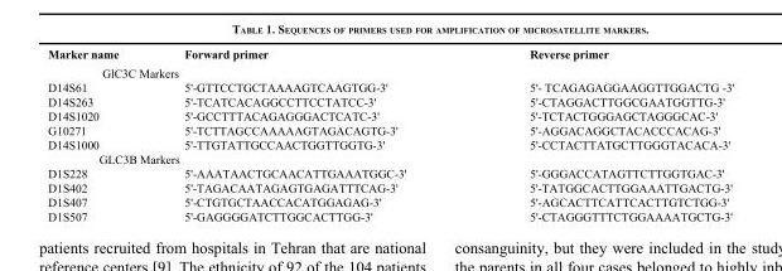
<table><thead><tr><td>Marker name</td><td>Forward primer</td><td>Reverse primer</td></tr></thead><tbody><tr><td colspan="3">GlC3C Markers</td></tr><tr><td>D14S61</td><td>5&#x27;-GTTCCTGCTAAAAGTCAAGTGG-3&#x27;</td><td>5&#x27;- TCAGAGAGGAAGGTTGGACTG -3&#x27;</td></tr><tr><td>D14S263</td><td>5&#x27;-TCATCACAGGCCTTCCTATCC-3&#x27;</td><td>5&#x27;-CTAGGACTTGGCGAATGGTTG-3&#x27;</td></tr><tr><td>D14S1020</td><td>5&#x27;-GCCTTTACAGAGGGACTCATC-3&#x27;</td><td>5&#x27;-TCTACTGGGAGCTAGGGCAC-3&#x27;</td></tr><tr><td>G10271</td><td>5&#x27;-TCTTAGCCAAAAAGTAGACAGTG-3&#x27;</td><td>5&#x27;-AGGACAGGCTACACCCACAG-3&#x27;</td></tr><tr><td>D14S1000</td><td>5&#x27;-TTGTATTGCCAACTGGTTGGTG-3&#x27;</td><td>5&#x27;-CCTACTTATGCTTGGGTACACA-3&#x27;</td></tr><tr><td colspan="3">GLC3B Markers</td></tr><tr><td>D1S228</td><td>5&#x27;-AAATAACTGCAACATTGAAATGGC-3&#x27;</td><td>5&#x27;-GGGACCATAGTTCTTGGTGAC-3&#x27;</td></tr><tr><td>D1S402</td><td>5&#x27;-TAGACAATAGAGTGAGATTTCAG-3&#x27;</td><td>5&#x27;-TATGGCACTTGGAAATTGACTG-3&#x27;</td></tr><tr><td>D1S407</td><td>5&#x27;-CTGTGCTAACCACATGGAGAG-3&#x27;</td><td>5&#x27;-AGCACTTCATTCACTTGTCTGG-3&#x27;</td></tr><tr><td>D1S507</td><td>5&#x27;-GAGGGGATCTTGGCACTTGG-3&#x27;</td><td>5&#x27;-CTAGGGTTTCTGGAAAATGCTG-3&#x27;</td></tr></tbody></table>